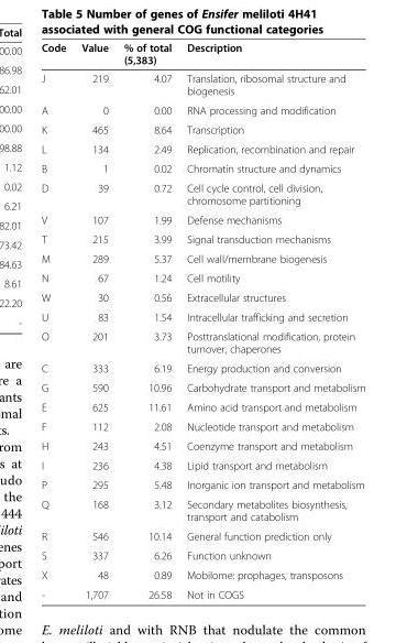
<table><thead><tr><td>Code</td><td>Value</td><td>% of total (5,383)</td><td>Description</td></tr></thead><tbody><tr><td>J</td><td>219</td><td>4.07</td><td>Translation, ribosomal structure and biogenesis</td></tr><tr><td>A</td><td>0</td><td>0.00</td><td>RNA processing and modification</td></tr><tr><td>K</td><td>465</td><td>8.64</td><td>Transcription</td></tr><tr><td>L</td><td>134</td><td>2.49</td><td>Replication, recombination and repair</td></tr><tr><td>B</td><td>1</td><td>0.02</td><td>Chromatin structure and dynamics</td></tr><tr><td>D</td><td>39</td><td>0.72</td><td>Cell cycle control, cell division, chromosome partitioning</td></tr><tr><td>V</td><td>107</td><td>1.99</td><td>Defense mechanisms</td></tr><tr><td>T</td><td>215</td><td>3.99</td><td>Signal transduction mechanisms</td></tr><tr><td>M</td><td>289</td><td>5.37</td><td>Cell wall/membrane biogenesis</td></tr><tr><td>N</td><td>67</td><td>1.24</td><td>Cell motility</td></tr><tr><td>W</td><td>30</td><td>0.56</td><td>Extracellular structures</td></tr><tr><td>U</td><td>83</td><td>1.54</td><td>Intracellular trafficking and secretion</td></tr><tr><td>O</td><td>201</td><td>3.73</td><td>Posttranslational modification, protein turnover, chaperones</td></tr><tr><td>C</td><td>333</td><td>6.19</td><td>Energy production and conversion</td></tr><tr><td>G</td><td>590</td><td>10.96</td><td>Carbohydrate transport and metabolism</td></tr><tr><td>E</td><td>625</td><td>11.61</td><td>Amino acid transport and metabolism</td></tr><tr><td>F</td><td>112</td><td>2.08</td><td>Nucleotide transport and metabolism</td></tr><tr><td>H</td><td>243</td><td>4.51</td><td>Coenzyme transport and metabolism</td></tr><tr><td>I</td><td>236</td><td>4.38</td><td>Lipid transport and metabolism</td></tr><tr><td>P</td><td>295</td><td>5.48</td><td>Inorganic ion transport and metabolism</td></tr><tr><td>Q</td><td>168</td><td>3.12</td><td>Secondary metabolites biosynthesis, transport and catabolism</td></tr><tr><td>R</td><td>546</td><td>10.14</td><td>General function prediction only</td></tr><tr><td>S</td><td>337</td><td>6.26</td><td>Function unknown</td></tr><tr><td>X</td><td>48</td><td>0.89</td><td>Mobilome: prophages, transposons</td></tr><tr><td>-</td><td>1,707</td><td>26.58</td><td>Not in COGS</td></tr></tbody></table>